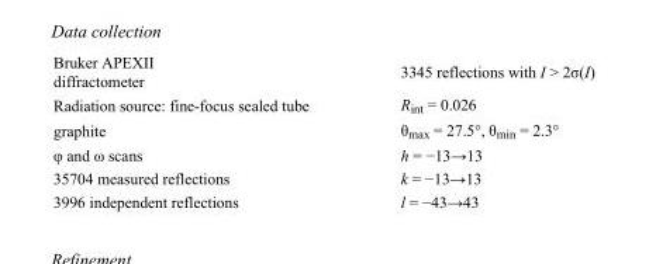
<table><tbody><tr><td>Bruker APEXII diffractometer</td><td>3345 reflections with I &gt; 2σ(I)</td></tr><tr><td>Radiation source: fine-focus sealed tube</td><td>R<sub>int</sub> = 0.026</td></tr><tr><td>graphite</td><td>θ<sub>max</sub> = 27.5°, θ<sub>min</sub> = 2.3°</td></tr><tr><td>φ and ω scans</td><td>h = −13→13</td></tr><tr><td>35704 measured reflections</td><td>k = −13→13</td></tr><tr><td>3996 independent reflections</td><td>l = −43→43</td></tr></tbody></table>